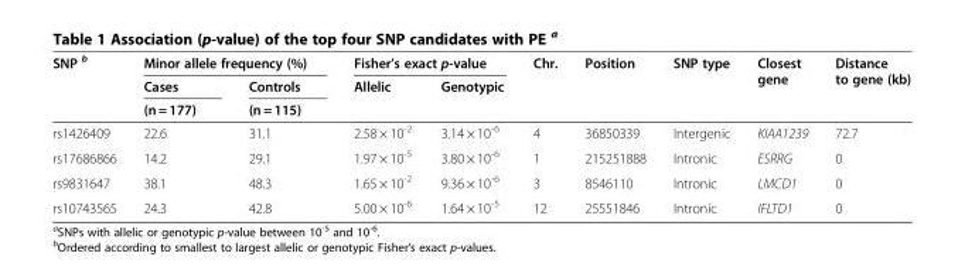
<table><thead><tr><td rowspan="3">SNP <sup>b</sup></td><td colspan="2">Minor allele frequency (%)</td><td colspan="2">Fisher’s exact p-value</td><td rowspan="3">Chr.</td><td rowspan="3">Position</td><td rowspan="3">SNP type</td><td rowspan="3">Closest gene</td><td rowspan="3">Distance to gene (kb)</td></tr><tr><td rowspan="2">Cases (n = 177)</td><td rowspan="2">Controls (n = 115)</td><td rowspan="2">Allelic</td><td rowspan="2">Genotypic</td></tr><tr></tr></thead><tbody><tr><td>rs1426409</td><td>22.6</td><td>31.1</td><td>2.58 × 10<sup>-2</sup></td><td>3.14 × 10<sup>-6</sup></td><td>4</td><td>36850339</td><td>Intergenic</td><td>KIAA1239</td><td>72.7</td></tr><tr><td>rs17686866</td><td>14.2</td><td>29.1</td><td>1.97 × 10<sup>-5</sup></td><td>3.80 × 10<sup>-6</sup></td><td>1</td><td>215251888</td><td>Intronic</td><td>ESRRG</td><td>0</td></tr><tr><td>rs9831647</td><td>38.1</td><td>48.3</td><td>1.65 × 10<sup>-2</sup></td><td>9.36 × 10<sup>-6</sup></td><td>3</td><td>8546110</td><td>Intronic</td><td>LMCD1</td><td>0</td></tr><tr><td>rs10743565</td><td>24.3</td><td>42.8</td><td>5.00 × 10<sup>-6</sup></td><td>1.64 × 10<sup>-5</sup></td><td>12</td><td>25551846</td><td>Intronic</td><td>IFLTD1</td><td>0</td></tr></tbody></table>